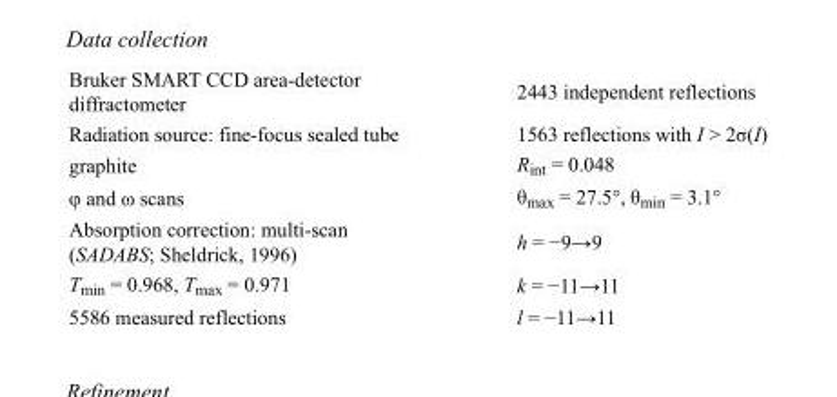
<table><tbody><tr><td>Bruker SMART CCD area-detector diffractometer</td><td>2443 independent reflections</td></tr><tr><td>Radiation source: fine-focus sealed tube</td><td>1563 reflections with I &gt; 2σ(I)</td></tr><tr><td>graphite</td><td>R<sub>int</sub> = 0.048</td></tr><tr><td>φ and ω scans</td><td>θ<sub>max</sub> = 27.5°, θ<sub>min</sub> = 3.1°</td></tr><tr><td>Absorption correction: multi-scan (SADABS; Sheldrick, 1996)</td><td>h = −9→9</td></tr><tr><td>T<sub>min</sub> = 0.968, T<sub>max</sub> = 0.971</td><td>k = −11→11</td></tr><tr><td>5586 measured reflections</td><td>l = −11→11</td></tr></tbody></table>